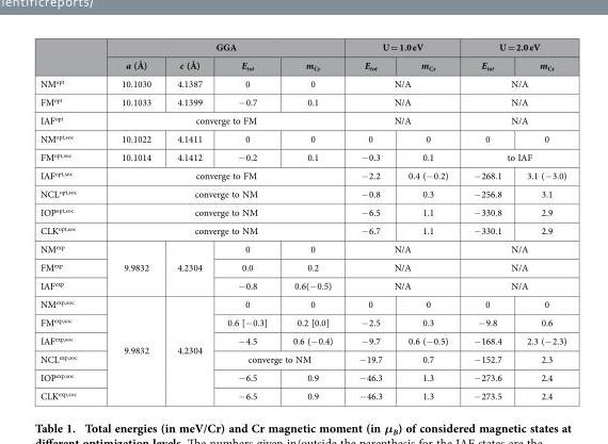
<table><thead><tr><td rowspan="2"></td><td colspan="4">GGA</td><td colspan="2">U = 1.0 eV</td><td colspan="2">U = 2.0 eV</td></tr><tr><td>a (Å)</td><td>c (Å)</td><td>E<sub>tot</sub></td><td>m<sub>Cr</sub></td><td>E<sub>tot</sub></td><td>m<sub>Cr</sub></td><td>E<sub>tot</sub></td><td>m<sub>Cr</sub></td></tr></thead><tbody><tr><td>NM<sup>opt</sup></td><td>10.1030</td><td>4.1387</td><td>0</td><td>0</td><td colspan="2">N/A</td><td colspan="2">N/A</td></tr><tr><td>FM<sup>opt</sup></td><td>10.1033</td><td>4.1399</td><td>− 0.7</td><td>0.1</td><td colspan="2">N/A</td><td colspan="2">N/A</td></tr><tr><td>IAF<sup>opt</sup></td><td colspan="4">converge to FM</td><td colspan="2">N/A</td><td colspan="2">N/A</td></tr><tr><td>NM<sup>opt,soc</sup></td><td>10.1022</td><td>4.1411</td><td>0</td><td>0</td><td>0</td><td>0</td><td>0</td><td>0</td></tr><tr><td>FM<sup>opt,soc</sup></td><td>10.1014</td><td>4.1412</td><td>− 0.2</td><td>0.1</td><td>− 0.3</td><td>0.1</td><td colspan="2">to IAF</td></tr><tr><td>IAF<sup>opt,soc</sup></td><td colspan="4">converge to FM</td><td>− 2.2</td><td>0.4 (− 0.2)</td><td>− 268.1</td><td>3.1 (− 3.0)</td></tr><tr><td>NCL<sup>opt,soc</sup></td><td colspan="4">converge to NM</td><td>− 0.8</td><td>0.3</td><td>− 256.8</td><td>3.1</td></tr><tr><td>IOP<sup>opt,soc</sup></td><td colspan="4">converge to NM</td><td>− 6.5</td><td>1.1</td><td>− 330.8</td><td>2.9</td></tr><tr><td>CLK<sup>opt,soc</sup></td><td colspan="4">converge to NM</td><td>− 6.7</td><td>1.1</td><td>− 330.1</td><td>2.9</td></tr><tr><td>NM<sup>exp</sup></td><td rowspan="3">9.9832</td><td rowspan="3">4.2304</td><td>0</td><td>0</td><td colspan="2">N/A</td><td colspan="2">N/A</td></tr><tr><td>FM<sup>exp</sup></td><td>0.0</td><td>0.2</td><td colspan="2">N/A</td><td colspan="2">N/A</td></tr><tr><td>IAF<sup>exp</sup></td><td>− 0.8</td><td>0.6(− 0.5)</td><td colspan="2">N/A</td><td colspan="2">N/A</td></tr><tr><td>NM<sup>exp,soc</sup></td><td rowspan="6">9.9832</td><td rowspan="6">4.2304</td><td>0</td><td>0</td><td>0</td><td>0</td><td>0</td><td>0</td></tr><tr><td>FM<sup>exp,soc</sup></td><td>0.6 [− 0.3]</td><td>0.2 [0.0]</td><td>− 2.5</td><td>0.3</td><td>− 9.8</td><td>0.6</td></tr><tr><td>IAF<sup>exp,soc</sup></td><td>− 4.5</td><td>0.6 (− 0.4)</td><td>− 9.7</td><td>0.6 (− 0.5)</td><td>− 168.4</td><td>2.3 (− 2.3)</td></tr><tr><td>NCL<sup>exp,soc</sup></td><td colspan="2">converge to NM</td><td>− 19.7</td><td>0.7</td><td>− 152.7</td><td>2.3</td></tr><tr><td>IOP<sup>exp,soc</sup></td><td>− 6.5</td><td>0.9</td><td>− 46.3</td><td>1.3</td><td>− 273.6</td><td>2.4</td></tr><tr><td>CLK<sup>exp,soc</sup></td><td>− 6.5</td><td>0.9</td><td>− 46.3</td><td>1.3</td><td>− 273.5</td><td>2.4</td></tr></tbody></table>